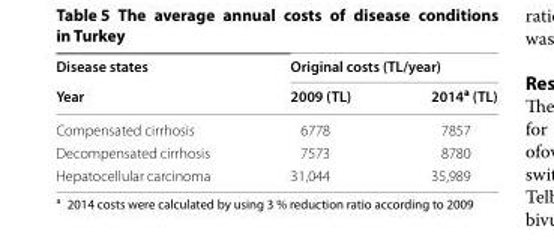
<table><thead><tr><td rowspan="2">Disease states Year</td><td colspan="2">Original costs (TL/year)</td></tr><tr><td>2009 (TL)</td><td>2014<sup>a</sup> (TL)</td></tr></thead><tbody><tr><td>Compensated cirrhosis</td><td>6778</td><td>7857</td></tr><tr><td>Decompensated cirrhosis</td><td>7573</td><td>8780</td></tr><tr><td>Hepatocellular carcinoma</td><td>31,044</td><td>35,989</td></tr></tbody></table>